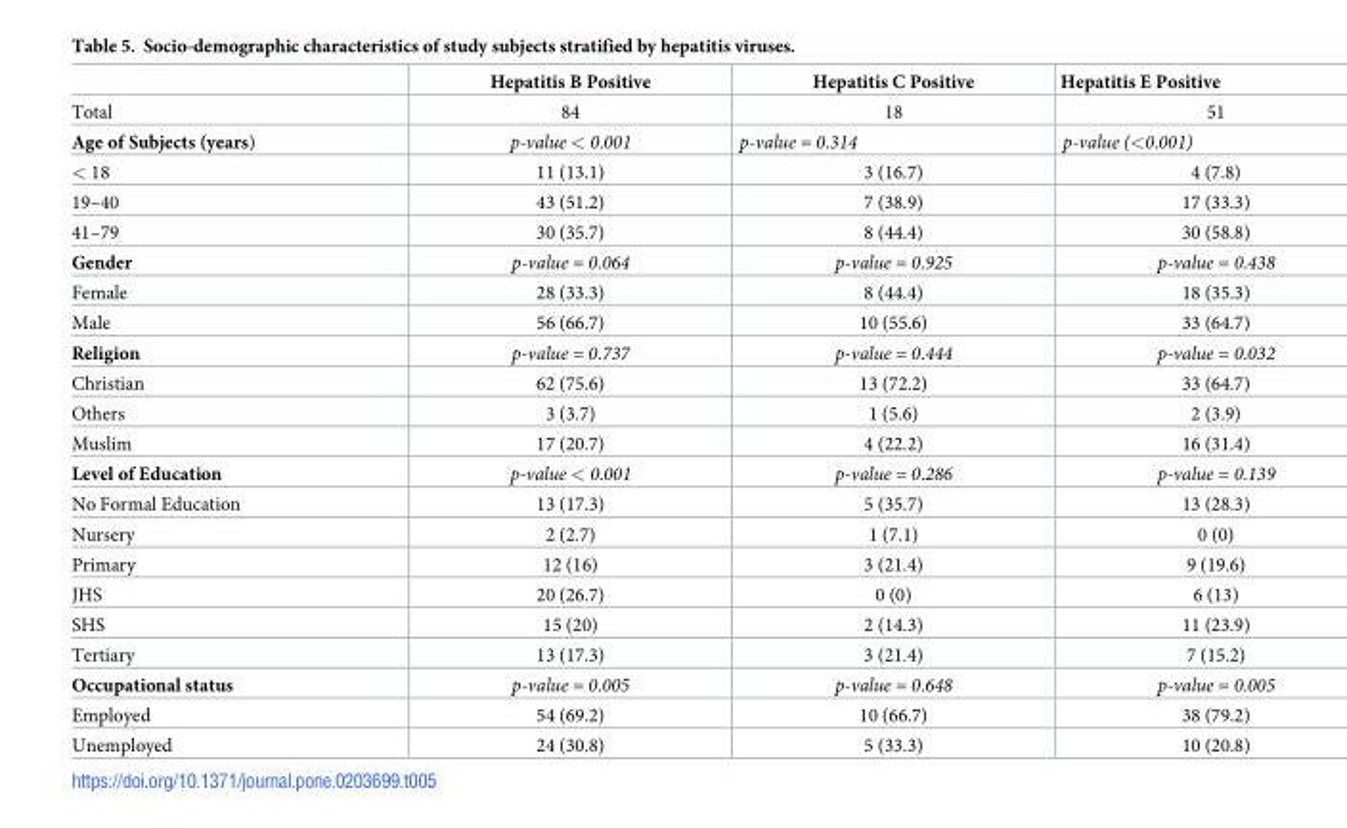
<table><thead><tr><td></td><td>Hepatitis B Positive</td><td>Hepatitis C Positive</td><td>Hepatitis E Positive</td></tr></thead><tbody><tr><td>Total</td><td>84</td><td>18</td><td>51</td></tr><tr><td>Age of Subjects (years)</td><td>p-value &lt; 0.001</td><td>p-value = 0.314</td><td>p-value (&lt;0.001)</td></tr><tr><td>&lt; 18</td><td>11 (13.1)</td><td>3 (16.7)</td><td>4 (7.8)</td></tr><tr><td>19–40</td><td>43 (51.2)</td><td>7 (38.9)</td><td>17 (33.3)</td></tr><tr><td>41–79</td><td>30 (35.7)</td><td>8 (44.4)</td><td>30 (58.8)</td></tr><tr><td>Gender</td><td>p-value = 0.064</td><td>p-value = 0.925</td><td>p-value = 0.438</td></tr><tr><td>Female</td><td>28 (33.3)</td><td>8 (44.4)</td><td>18 (35.3)</td></tr><tr><td>Male</td><td>56 (66.7)</td><td>10 (55.6)</td><td>33 (64.7)</td></tr><tr><td>Religion</td><td>p-value = 0.737</td><td>p-value = 0.444</td><td>p-value = 0.032</td></tr><tr><td>Christian</td><td>62 (75.6)</td><td>13 (72.2)</td><td>33 (64.7)</td></tr><tr><td>Others</td><td>3 (3.7)</td><td>1 (5.6)</td><td>2 (3.9)</td></tr><tr><td>Muslim</td><td>17 (20.7)</td><td>4 (22.2)</td><td>16 (31.4)</td></tr><tr><td>Level of Education</td><td>p-value &lt; 0.001</td><td>p-value = 0.286</td><td>p-value = 0.139</td></tr><tr><td>No Formal Education</td><td>13 (17.3)</td><td>5 (35.7)</td><td>13 (28.3)</td></tr><tr><td>Nursery</td><td>2 (2.7)</td><td>1 (7.1)</td><td>0 (0)</td></tr><tr><td>Primary</td><td>12 (16)</td><td>3 (21.4)</td><td>9 (19.6)</td></tr><tr><td>JHS</td><td>20 (26.7)</td><td>0 (0)</td><td>6 (13)</td></tr><tr><td>SHS</td><td>15 (20)</td><td>2 (14.3)</td><td>11 (23.9)</td></tr><tr><td>Tertiary</td><td>13 (17.3)</td><td>3 (21.4)</td><td>7 (15.2)</td></tr><tr><td>Occupational status</td><td>p-value = 0.005</td><td>p-value = 0.648</td><td>p-value = 0.005</td></tr><tr><td>Employed</td><td>54 (69.2)</td><td>10 (66.7)</td><td>38 (79.2)</td></tr><tr><td>Unemployed</td><td>24 (30.8)</td><td>5 (33.3)</td><td>10 (20.8)</td></tr></tbody></table>